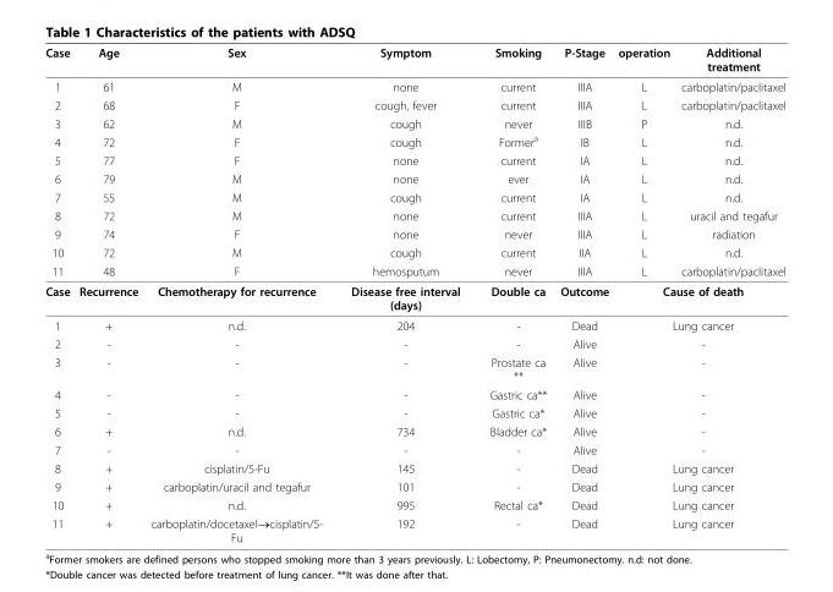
<table><thead><tr><td>Case</td><td>Age</td><td>Sex</td><td>Symptom</td><td>Smoking</td><td>P-Stage</td><td>operation</td><td>Additional treatment</td></tr></thead><tbody><tr><td>1</td><td>61</td><td>M</td><td>none</td><td>current</td><td>IIIA</td><td>L</td><td>carboplatin/paclitaxel</td></tr><tr><td>2</td><td>68</td><td>F</td><td>cough, fever</td><td>current</td><td>IIIA</td><td>L</td><td>carboplatin/paclitaxel</td></tr><tr><td>3</td><td>62</td><td>M</td><td>cough</td><td>never</td><td>IIIB</td><td>P</td><td>n.d.</td></tr><tr><td>4</td><td>72</td><td>F</td><td>cough</td><td>Former<sup>a</sup></td><td>IB</td><td>L</td><td>n.d.</td></tr><tr><td>5</td><td>77</td><td>F</td><td>none</td><td>current</td><td>IA</td><td>L</td><td>n.d.</td></tr><tr><td>6</td><td>79</td><td>M</td><td>none</td><td>ever</td><td>IA</td><td>L</td><td>n.d.</td></tr><tr><td>7</td><td>55</td><td>M</td><td>cough</td><td>current</td><td>IA</td><td>L</td><td>n.d.</td></tr><tr><td>8</td><td>72</td><td>M</td><td>none</td><td>current</td><td>IIIA</td><td>L</td><td>uracil and tegafur</td></tr><tr><td>9</td><td>74</td><td>F</td><td>none</td><td>never</td><td>IIIA</td><td>L</td><td>radiation</td></tr><tr><td>10</td><td>72</td><td>M</td><td>cough</td><td>current</td><td>IIA</td><td>L</td><td>n.d.</td></tr><tr><td>11</td><td>48</td><td>F</td><td>hemosputum</td><td>never</td><td>IIIA</td><td>L</td><td>carboplatin/paclitaxel</td></tr><tr><td>Case</td><td>Recurrence</td><td>Chemotherapy for recurrence</td><td>Disease free interval (days)</td><td>Double ca</td><td>Outcome</td><td colspan="2">Cause of death</td></tr><tr><td>1</td><td>+</td><td>n.d.</td><td>204</td><td>-</td><td>Dead</td><td colspan="2">Lung cancer</td></tr><tr><td>2</td><td>-</td><td>-</td><td>-</td><td>-</td><td>Alive</td><td colspan="2">-</td></tr><tr><td>3</td><td>-</td><td>-</td><td>-</td><td>Prostate ca **</td><td>Alive</td><td colspan="2">-</td></tr><tr><td>4</td><td>-</td><td>-</td><td>-</td><td>Gastric ca**</td><td>Alive</td><td colspan="2">-</td></tr><tr><td>5</td><td>-</td><td>-</td><td>-</td><td>Gastric ca*</td><td>Alive</td><td colspan="2">-</td></tr><tr><td>6</td><td>+</td><td>n.d.</td><td>734</td><td>Bladder ca*</td><td>Alive</td><td colspan="2">-</td></tr><tr><td>7</td><td>-</td><td>-</td><td>-</td><td>-</td><td>Alive</td><td colspan="2">-</td></tr><tr><td>8</td><td>+</td><td>cisplatin/5-Fu</td><td>145</td><td>-</td><td>Dead</td><td colspan="2">Lung cancer</td></tr><tr><td>9</td><td>+</td><td>carboplatin/uracil and tegafur</td><td>101</td><td>-</td><td>Dead</td><td colspan="2">Lung cancer</td></tr><tr><td>10</td><td>+</td><td>n.d.</td><td>995</td><td>Rectal ca*</td><td>Dead</td><td colspan="2">Lung cancer</td></tr><tr><td>11</td><td>+</td><td>carboplatin/docetaxel→cisplatin/5- Fu</td><td>192</td><td>-</td><td>Dead</td><td colspan="2">Lung cancer</td></tr></tbody></table>